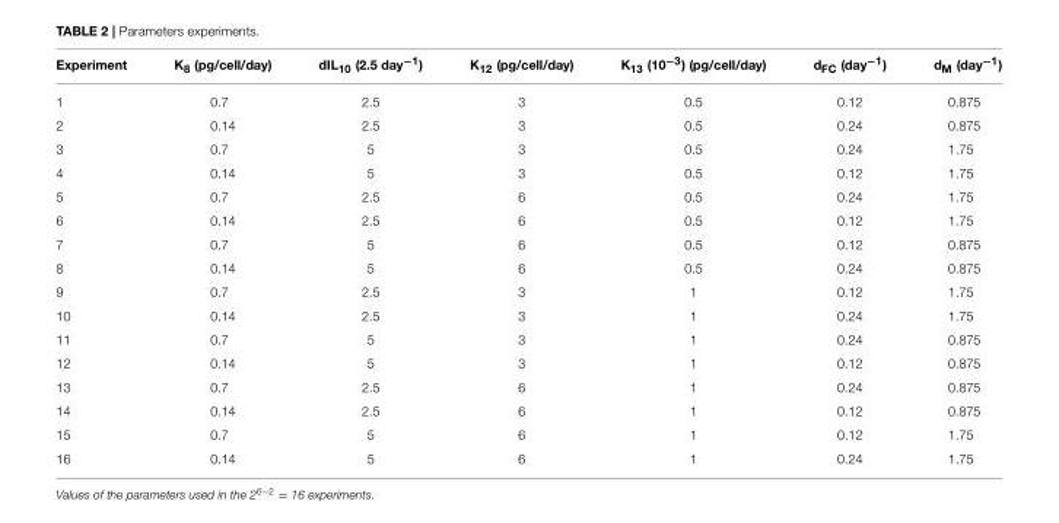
<table><thead><tr><td>Experiment</td><td>K<sub>8</sub> (pg/cell/day)</td><td>dIL<sub>10</sub> (2.5 day<sup>−1</sup>)</td><td>K<sub>12</sub> (pg/cell/day)</td><td>K<sub>13</sub> (10<sup>−3</sup>) (pg/cell/day)</td><td>d<sub>FC</sub> (day<sup>−1</sup>)</td><td>d<sub>M</sub> (day<sup>−1</sup>)</td></tr></thead><tbody><tr><td>1</td><td>0.7</td><td>2.5</td><td>3</td><td>0.5</td><td>0.12</td><td>0.875</td></tr><tr><td>2</td><td>0.14</td><td>2.5</td><td>3</td><td>0.5</td><td>0.24</td><td>0.875</td></tr><tr><td>3</td><td>0.7</td><td>5</td><td>3</td><td>0.5</td><td>0.24</td><td>1.75</td></tr><tr><td>4</td><td>0.14</td><td>5</td><td>3</td><td>0.5</td><td>0.12</td><td>1.75</td></tr><tr><td>5</td><td>0.7</td><td>2.5</td><td>6</td><td>0.5</td><td>0.24</td><td>1.75</td></tr><tr><td>6</td><td>0.14</td><td>2.5</td><td>6</td><td>0.5</td><td>0.12</td><td>1.75</td></tr><tr><td>7</td><td>0.7</td><td>5</td><td>6</td><td>0.5</td><td>0.12</td><td>0.875</td></tr><tr><td>8</td><td>0.14</td><td>5</td><td>6</td><td>0.5</td><td>0.24</td><td>0.875</td></tr><tr><td>9</td><td>0.7</td><td>2.5</td><td>3</td><td>1</td><td>0.12</td><td>1.75</td></tr><tr><td>10</td><td>0.14</td><td>2.5</td><td>3</td><td>1</td><td>0.24</td><td>1.75</td></tr><tr><td>11</td><td>0.7</td><td>5</td><td>3</td><td>1</td><td>0.24</td><td>0.875</td></tr><tr><td>12</td><td>0.14</td><td>5</td><td>3</td><td>1</td><td>0.12</td><td>0.875</td></tr><tr><td>13</td><td>0.7</td><td>2.5</td><td>6</td><td>1</td><td>0.24</td><td>0.875</td></tr><tr><td>14</td><td>0.14</td><td>2.5</td><td>6</td><td>1</td><td>0.12</td><td>0.875</td></tr><tr><td>15</td><td>0.7</td><td>5</td><td>6</td><td>1</td><td>0.12</td><td>1.75</td></tr><tr><td>16</td><td>0.14</td><td>5</td><td>6</td><td>1</td><td>0.24</td><td>1.75</td></tr></tbody></table>